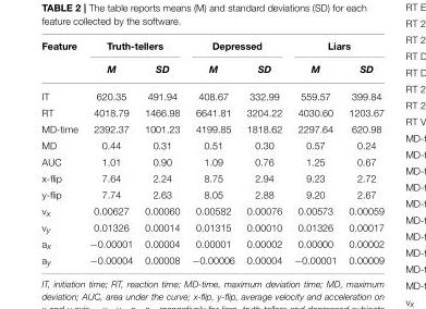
<table><thead><tr><td rowspan="2">Feature</td><td colspan="2">Truth-tellers</td><td colspan="2">Depressed</td><td colspan="2">Liars</td></tr><tr><td>M</td><td>SD</td><td>M</td><td>SD</td><td>M</td><td>SD</td></tr></thead><tbody><tr><td>IT</td><td>620.35</td><td>491.94</td><td>408.67</td><td>332.99</td><td>559.57</td><td>399.84</td></tr><tr><td>RT</td><td>4018.79</td><td>1466.98</td><td>6641.81</td><td>3204.22</td><td>4030.60</td><td>1203.67</td></tr><tr><td>MD-time</td><td>2392.37</td><td>1001.23</td><td>4199.85</td><td>1818.62</td><td>2297.64</td><td>620.98</td></tr><tr><td>MD</td><td>0.44</td><td>0.31</td><td>0.51</td><td>0.30</td><td>0.57</td><td>0.24</td></tr><tr><td>AUC</td><td>1.01</td><td>0.90</td><td>1.09</td><td>0.76</td><td>1.25</td><td>0.67</td></tr><tr><td>x-flip</td><td>7.64</td><td>2.24</td><td>8.75</td><td>2.94</td><td>9.23</td><td>2.72</td></tr><tr><td>y-flip</td><td>7.74</td><td>2.63</td><td>8.05</td><td>2.88</td><td>9.20</td><td>2.67</td></tr><tr><td>vx</td><td>0.00627</td><td>0.00060</td><td>0.00582</td><td>0.00076</td><td>0.00573</td><td>0.00059</td></tr><tr><td>vy</td><td>0.01326</td><td>0.00014</td><td>0.01315</td><td>0.00010</td><td>0.01326</td><td>0.00017</td></tr><tr><td>ax</td><td>−0.00001</td><td>0.00004</td><td>0.00001</td><td>0.00002</td><td>0.00000</td><td>0.00002</td></tr><tr><td>ay</td><td>−0.00004</td><td>0.00008</td><td>−0.00006</td><td>0.00004</td><td>−0.00001</td><td>0.00009</td></tr></tbody></table>